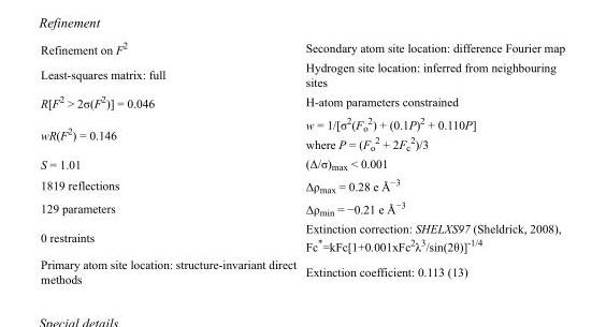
<table><tbody><tr><td>Refinement on F<sup>2</sup></td><td>Secondary atom site location: difference Fourier map</td></tr><tr><td>Least-squares matrix: full</td><td>Hydrogen site location: inferred from neighbouring sites</td></tr><tr><td>R[F<sup>2</sup> &gt; 2σ(F<sup>2</sup>)] = 0.046</td><td>H-atom parameters constrained</td></tr><tr><td>wR(F<sup>2</sup>) = 0.146</td><td>w = 1/[σ<sup>2</sup>(F<sub>o</sub> <sup>2</sup>) + (0.1P)<sup>2</sup> + 0.110P] where P = (F<sub>o</sub> <sup>2</sup> + 2F<sub>c</sub> <sup>2</sup>)/3</td></tr><tr><td>S = 1.01</td><td>(Δ/σ)<sub>max</sub> &lt; 0.001</td></tr><tr><td>1819 reflections</td><td>Δρ<sub>max</sub> = 0.28 e Å<sup>−3</sup></td></tr><tr><td>129 parameters</td><td>Δρ<sub>min</sub> = −0.21 e Å<sup>−3</sup></td></tr><tr><td>0 restraints</td><td>Extinction correction: SHELXS97 (Sheldrick, 2008), Fc*=kFc[1+0.001xFc<sup>2</sup>λ<sup>3</sup>/sin(2θ)]<sup>-1/4</sup></td></tr><tr><td>Primary atom site location: structure-invariant direct methods</td><td>Extinction coefficient: 0.113 (13)</td></tr></tbody></table>